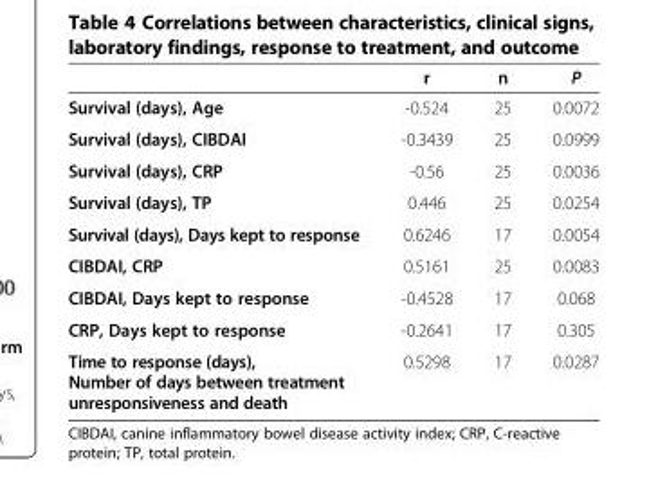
<table><thead><tr><td></td><td>r</td><td>n</td><td>P</td></tr></thead><tbody><tr><td>Survival (days), Age</td><td>-0.524</td><td>25</td><td>0.0072</td></tr><tr><td>Survival (days), CIBDAI</td><td>-0.3439</td><td>25</td><td>0.0999</td></tr><tr><td>Survival (days), CRP</td><td>-0.56</td><td>25</td><td>0.0036</td></tr><tr><td>Survival (days), TP</td><td>0.446</td><td>25</td><td>0.0254</td></tr><tr><td>Survival (days), Days kept to response</td><td>0.6246</td><td>17</td><td>0.0054</td></tr><tr><td>CIBDAI, CRP</td><td>0.5161</td><td>25</td><td>0.0083</td></tr><tr><td>CIBDAI, Days kept to response</td><td>-0.4528</td><td>17</td><td>0.068</td></tr><tr><td>CRP, Days kept to response</td><td>-0.2641</td><td>17</td><td>0.305</td></tr><tr><td>Time to response (days), Number of days between treatment unresponsiveness and death</td><td>0.5298</td><td>17</td><td>0.0287</td></tr></tbody></table>